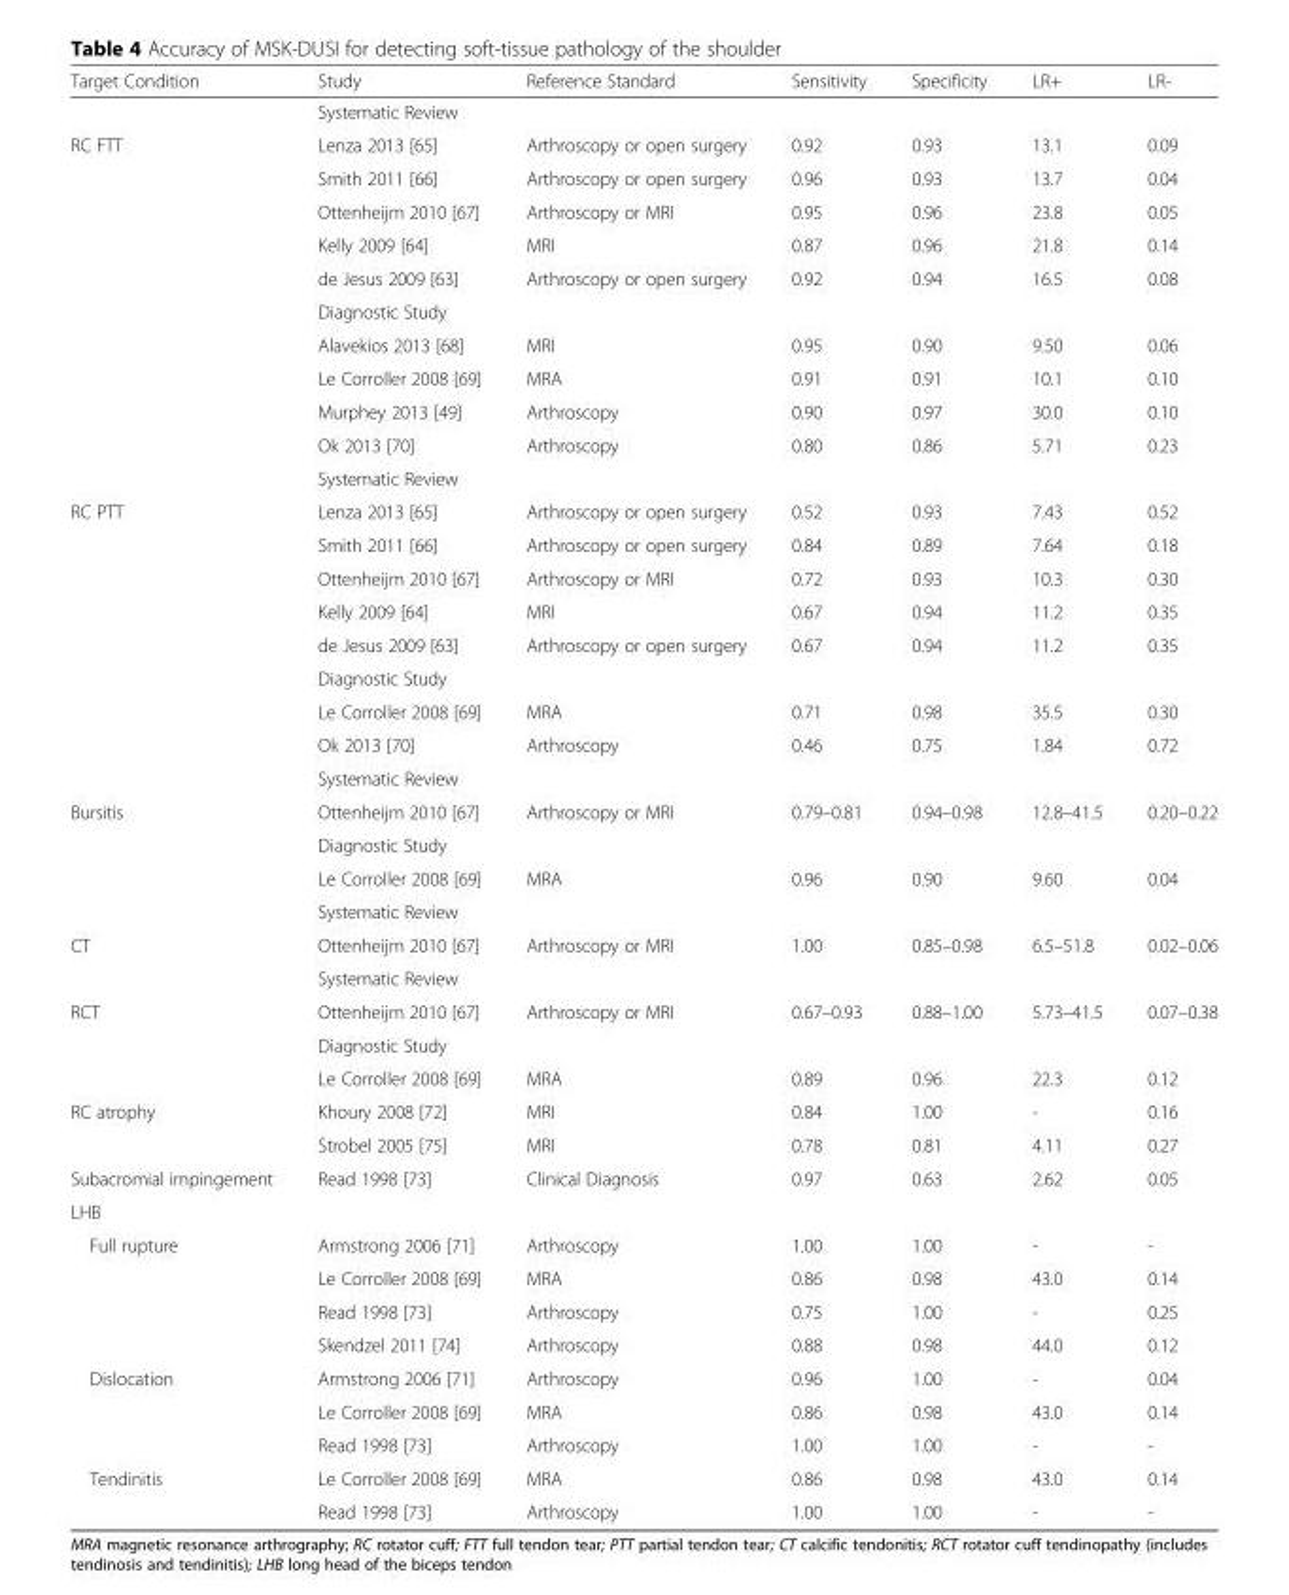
<table><thead><tr><td>Target Condition</td><td>Study</td><td>Reference Standard</td><td>Sensitivity</td><td>Specificity</td><td>LR+</td><td>LR-</td></tr></thead><tbody><tr><td></td><td>Systematic Review</td><td></td><td></td><td></td><td></td><td></td></tr><tr><td rowspan="11">RC FTT</td><td>Lenza 2013 [65]</td><td>Arthroscopy or open surgery</td><td>0.92</td><td>0.93</td><td>13.1</td><td>0.09</td></tr><tr><td>Smith 2011 [66]</td><td>Arthroscopy or open surgery</td><td>0.96</td><td>0.93</td><td>13.7</td><td>0.04</td></tr><tr><td>Ottenheijm 2010 [67]</td><td>Arthroscopy or MRI</td><td>0.95</td><td>0.96</td><td>23.8</td><td>0.05</td></tr><tr><td>Kelly 2009 [64]</td><td>MRI</td><td>0.87</td><td>0.96</td><td>21.8</td><td>0.14</td></tr><tr><td>de Jesus 2009 [63]</td><td>Arthroscopy or open surgery</td><td>0.92</td><td>0.94</td><td>16.5</td><td>0.08</td></tr><tr><td>Diagnostic Study</td><td></td><td></td><td></td><td></td><td></td></tr><tr><td>Alavekios 2013 [68]</td><td>MRI</td><td>0.95</td><td>0.90</td><td>9.50</td><td>0.06</td></tr><tr><td>Le Corroller 2008 [69]</td><td>MRA</td><td>0.91</td><td>0.91</td><td>10.1</td><td>0.10</td></tr><tr><td>Murphey 2013 [49]</td><td>Arthroscopy</td><td>0.90</td><td>0.97</td><td>30.0</td><td>0.10</td></tr><tr><td>Ok 2013 [70]</td><td>Arthroscopy</td><td>0.80</td><td>0.86</td><td>5.71</td><td>0.23</td></tr><tr><td>Systematic Review</td><td></td><td></td><td></td><td></td><td></td></tr><tr><td rowspan="9">RC PTT</td><td>Lenza 2013 [65]</td><td>Arthroscopy or open surgery</td><td>0.52</td><td>0.93</td><td>7.43</td><td>0.52</td></tr><tr><td>Smith 2011 [66]</td><td>Arthroscopy or open surgery</td><td>0.84</td><td>0.89</td><td>7.64</td><td>0.18</td></tr><tr><td>Ottenheijm 2010 [67]</td><td>Arthroscopy or MRI</td><td>0.72</td><td>0.93</td><td>10.3</td><td>0.30</td></tr><tr><td>Kelly 2009 [64]</td><td>MRI</td><td>0.67</td><td>0.94</td><td>11.2</td><td>0.35</td></tr><tr><td>de Jesus 2009 [63]</td><td>Arthroscopy or open surgery</td><td>0.67</td><td>0.94</td><td>11.2</td><td>0.35</td></tr><tr><td>Diagnostic Study</td><td></td><td></td><td></td><td></td><td></td></tr><tr><td>Le Corroller 2008 [69]</td><td>MRA</td><td>0.71</td><td>0.98</td><td>35.5</td><td>0.30</td></tr><tr><td>Ok 2013 [70]</td><td>Arthroscopy</td><td>0.46</td><td>0.75</td><td>1.84</td><td>0.72</td></tr><tr><td>Systematic Review</td><td></td><td></td><td></td><td></td><td></td></tr><tr><td rowspan="4">Bursitis</td><td>Ottenheijm 2010 [67]</td><td>Arthroscopy or MRI</td><td>0.79–0.81</td><td>0.94–0.98</td><td>12.8–41.5</td><td>0.20–0.22</td></tr><tr><td>Diagnostic Study</td><td></td><td></td><td></td><td></td><td></td></tr><tr><td>Le Corroller 2008 [69]</td><td>MRA</td><td>0.96</td><td>0.90</td><td>9.60</td><td>0.04</td></tr><tr><td>Systematic Review</td><td></td><td></td><td></td><td></td><td></td></tr><tr><td rowspan="2">CT</td><td>Ottenheijm 2010 [67]</td><td>Arthroscopy or MRI</td><td>1.00</td><td>0.85–0.98</td><td>6.5–51.8</td><td>0.02–0.06</td></tr><tr><td>Systematic Review</td><td></td><td></td><td></td><td></td><td></td></tr><tr><td rowspan="3">RCT</td><td>Ottenheijm 2010 [67]</td><td>Arthroscopy or MRI</td><td>0.67–0.93</td><td>0.88–1.00</td><td>5.73–41.5</td><td>0.07–0.38</td></tr><tr><td>Diagnostic Study</td><td></td><td></td><td></td><td></td><td></td></tr><tr><td>Le Corroller 2008 [69]</td><td>MRA</td><td>0.89</td><td>0.96</td><td>22.3</td><td>0.12</td></tr><tr><td rowspan="2">RC atrophy</td><td>Khoury 2008 [72]</td><td>MRI</td><td>0.84</td><td>1.00</td><td>-</td><td>0.16</td></tr><tr><td>Strobel 2005 [75]</td><td>MRI</td><td>0.78</td><td>0.81</td><td>4.11</td><td>0.27</td></tr><tr><td>Subacromial impingement</td><td>Read 1998 [73]</td><td>Clinical Diagnosis</td><td>0.97</td><td>0.63</td><td>2.62</td><td>0.05</td></tr><tr><td colspan="7">LHB</td></tr><tr><td rowspan="4">Full rupture</td><td>Armstrong 2006 [71]</td><td>Arthroscopy</td><td>1.00</td><td>1.00</td><td>-</td><td>-</td></tr><tr><td>Le Corroller 2008 [69]</td><td>MRA</td><td>0.86</td><td>0.98</td><td>43.0</td><td>0.14</td></tr><tr><td>Read 1998 [73]</td><td>Arthroscopy</td><td>0.75</td><td>1.00</td><td>-</td><td>0.25</td></tr><tr><td>Skendzel 2011 [74]</td><td>Arthroscopy</td><td>0.88</td><td>0.98</td><td>44.0</td><td>0.12</td></tr><tr><td rowspan="3">Dislocation</td><td>Armstrong 2006 [71]</td><td>Arthroscopy</td><td>0.96</td><td>1.00</td><td>-</td><td>0.04</td></tr><tr><td>Le Corroller 2008 [69]</td><td>MRA</td><td>0.86</td><td>0.98</td><td>43.0</td><td>0.14</td></tr><tr><td>Read 1998 [73]</td><td>Arthroscopy</td><td>1.00</td><td>1.00</td><td>-</td><td>-</td></tr><tr><td rowspan="2">Tendinitis</td><td>Le Corroller 2008 [69]</td><td>MRA</td><td>0.86</td><td>0.98</td><td>43.0</td><td>0.14</td></tr><tr><td>Read 1998 [73]</td><td>Arthroscopy</td><td>1.00</td><td>1.00</td><td>-</td><td>-</td></tr></tbody></table>